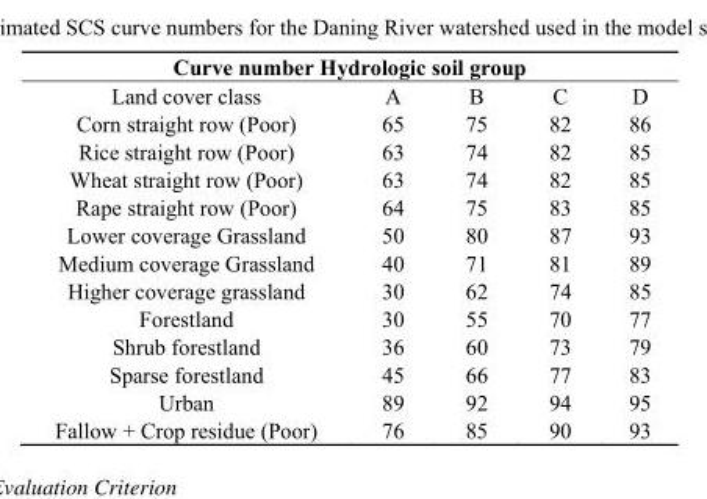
<table><thead><tr><td colspan="5">Curve number Hydrologic soil group</td></tr><tr><td>Land cover class</td><td>A</td><td>B</td><td>C</td><td>D</td></tr></thead><tbody><tr><td>Corn straight row (Poor)</td><td>65</td><td>75</td><td>82</td><td>86</td></tr><tr><td>Rice straight row (Poor)</td><td>63</td><td>74</td><td>82</td><td>85</td></tr><tr><td>Wheat straight row (Poor)</td><td>63</td><td>74</td><td>82</td><td>85</td></tr><tr><td>Rape straight row (Poor)</td><td>64</td><td>75</td><td>83</td><td>85</td></tr><tr><td>Lower coverage Grassland</td><td>50</td><td>80</td><td>87</td><td>93</td></tr><tr><td>Medium coverage Grassland</td><td>40</td><td>71</td><td>81</td><td>89</td></tr><tr><td>Higher coverage grassland</td><td>30</td><td>62</td><td>74</td><td>85</td></tr><tr><td>Forestland</td><td>30</td><td>55</td><td>70</td><td>77</td></tr><tr><td>Shrub forestland</td><td>36</td><td>60</td><td>73</td><td>79</td></tr><tr><td>Sparse forestland</td><td>45</td><td>66</td><td>77</td><td>83</td></tr><tr><td>Urban</td><td>89</td><td>92</td><td>94</td><td>95</td></tr><tr><td>Fallow + Crop residue (Poor)</td><td>76</td><td>85</td><td>90</td><td>93</td></tr></tbody></table>